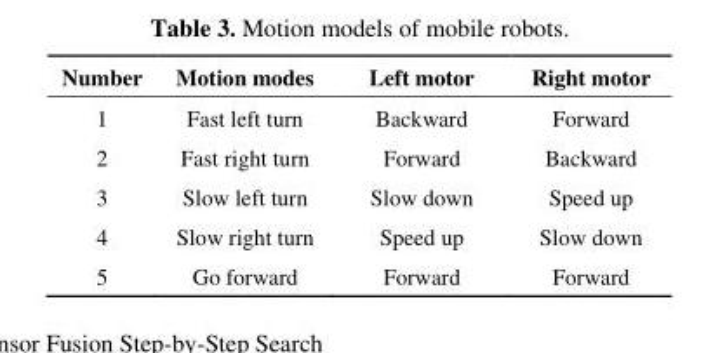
<table><thead><tr><td>Number</td><td>Motion modes</td><td>Left motor</td><td>Right motor</td></tr></thead><tbody><tr><td>1</td><td>Fast left turn</td><td>Backward</td><td>Forward</td></tr><tr><td>2</td><td>Fast right turn</td><td>Forward</td><td>Backward</td></tr><tr><td>3</td><td>Slow left turn</td><td>Slow down</td><td>Speed up</td></tr><tr><td>4</td><td>Slow right turn</td><td>Speed up</td><td>Slow down</td></tr><tr><td>5</td><td>Go forward</td><td>Forward</td><td>Forward</td></tr></tbody></table>